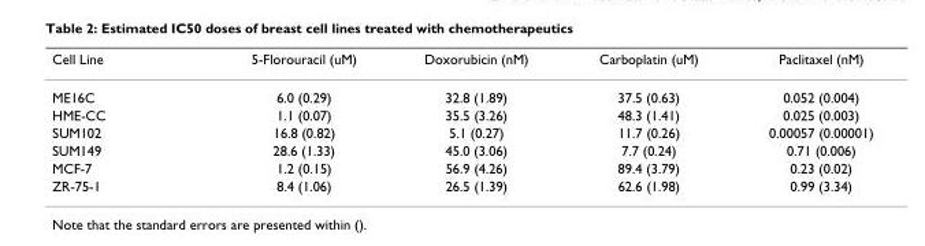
<table><thead><tr><td>Cell Line</td><td>5-Florouracil (uM)</td><td>Doxorubicin (nM)</td><td>Carboplatin (uM)</td><td>Paclitaxel (nM)</td></tr></thead><tbody><tr><td>ME16C</td><td>6.0 (0.29)</td><td>32.8 (1.89)</td><td>37.5 (0.63)</td><td>0.052 (0.004)</td></tr><tr><td>HME-CC</td><td>1.1 (0.07)</td><td>35.5 (3.26)</td><td>48.3 (1.41)</td><td>0.025 (0.003)</td></tr><tr><td>SUM102</td><td>16.8 (0.82)</td><td>5.1 (0.27)</td><td>11.7 (0.26)</td><td>0.00057 (0.00001)</td></tr><tr><td>SUM149</td><td>28.6 (1.33)</td><td>45.0 (3.06)</td><td>7.7 (0.24)</td><td>0.71 (0.006)</td></tr><tr><td>MCF-7</td><td>1.2 (0.15)</td><td>56.9 (4.26)</td><td>89.4 (3.79)</td><td>0.23 (0.02)</td></tr><tr><td>ZR-75-1</td><td>8.4 (1.06)</td><td>26.5 (1.39)</td><td>62.6 (1.98)</td><td>0.99 (3.34)</td></tr></tbody></table>